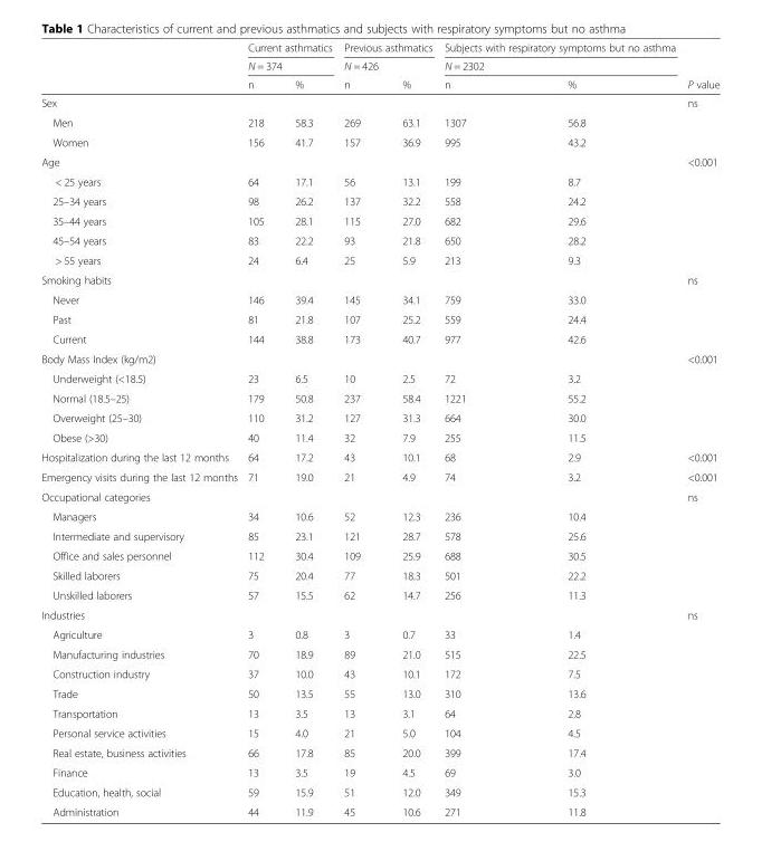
<table><thead><tr><td rowspan="3"></td><td rowspan="2" colspan="2">Current asthmatics N = 374</td><td colspan="2">Previous asthmatics</td><td rowspan="2" colspan="2">Subjects with respiratory symptoms but no asthma N = 2302</td><td rowspan="3">P value</td></tr><tr><td rowspan="2">N = 426 n</td><td rowspan="2">%</td></tr><tr><td>n</td><td>%</td><td>n</td><td>%</td></tr></thead><tbody><tr><td>Sex</td><td></td><td></td><td></td><td></td><td></td><td></td><td>ns</td></tr><tr><td>Men</td><td>218</td><td>58.3</td><td>269</td><td>63.1</td><td>1307</td><td>56.8</td><td></td></tr><tr><td>Women</td><td>156</td><td>41.7</td><td>157</td><td>36.9</td><td>995</td><td>43.2</td><td></td></tr><tr><td>Age</td><td></td><td></td><td></td><td></td><td></td><td></td><td>&lt;0.001</td></tr><tr><td>&lt; 25 years</td><td>64</td><td>17.1</td><td>56</td><td>13.1</td><td>199</td><td>8.7</td><td></td></tr><tr><td>25–34 years</td><td>98</td><td>26.2</td><td>137</td><td>32.2</td><td>558</td><td>24.2</td><td></td></tr><tr><td>35–44 years</td><td>105</td><td>28.1</td><td>115</td><td>27.0</td><td>682</td><td>29.6</td><td></td></tr><tr><td>45–54 years</td><td>83</td><td>22.2</td><td>93</td><td>21.8</td><td>650</td><td>28.2</td><td></td></tr><tr><td>&gt; 55 years</td><td>24</td><td>6.4</td><td>25</td><td>5.9</td><td>213</td><td>9.3</td><td></td></tr><tr><td>Smoking habits</td><td></td><td></td><td></td><td></td><td></td><td></td><td>ns</td></tr><tr><td>Never</td><td>146</td><td>39.4</td><td>145</td><td>34.1</td><td>759</td><td>33.0</td><td></td></tr><tr><td>Past</td><td>81</td><td>21.8</td><td>107</td><td>25.2</td><td>559</td><td>24.4</td><td></td></tr><tr><td>Current</td><td>144</td><td>38.8</td><td>173</td><td>40.7</td><td>977</td><td>42.6</td><td></td></tr><tr><td>Body Mass Index (kg/m2)</td><td></td><td></td><td></td><td></td><td></td><td></td><td>&lt;0.001</td></tr><tr><td>Underweight (&lt;18.5)</td><td>23</td><td>6.5</td><td>10</td><td>2.5</td><td>72</td><td>3.2</td><td></td></tr><tr><td>Normal (18.5–25)</td><td>179</td><td>50.8</td><td>237</td><td>58.4</td><td>1221</td><td>55.2</td><td></td></tr><tr><td>Overweight (25–30)</td><td>110</td><td>31.2</td><td>127</td><td>31.3</td><td>664</td><td>30.0</td><td></td></tr><tr><td>Obese (&gt;30)</td><td>40</td><td>11.4</td><td>32</td><td>7.9</td><td>255</td><td>11.5</td><td></td></tr><tr><td>Hospitalization during the last 12 months</td><td>64</td><td>17.2</td><td>43</td><td>10.1</td><td>68</td><td>2.9</td><td>&lt;0.001</td></tr><tr><td>Emergency visits during the last 12 months</td><td>71</td><td>19.0</td><td>21</td><td>4.9</td><td>74</td><td>3.2</td><td>&lt;0.001</td></tr><tr><td>Occupational categories</td><td></td><td></td><td></td><td></td><td></td><td></td><td>ns</td></tr><tr><td>Managers</td><td>34</td><td>10.6</td><td>52</td><td>12.3</td><td>236</td><td>10.4</td><td></td></tr><tr><td>Intermediate and supervisory</td><td>85</td><td>23.1</td><td>121</td><td>28.7</td><td>578</td><td>25.6</td><td></td></tr><tr><td>Office and sales personnel</td><td>112</td><td>30.4</td><td>109</td><td>25.9</td><td>688</td><td>30.5</td><td></td></tr><tr><td>Skilled laborers</td><td>75</td><td>20.4</td><td>77</td><td>18.3</td><td>501</td><td>22.2</td><td></td></tr><tr><td>Unskilled laborers</td><td>57</td><td>15.5</td><td>62</td><td>14.7</td><td>256</td><td>11.3</td><td></td></tr><tr><td>Industries</td><td></td><td></td><td></td><td></td><td></td><td></td><td>ns</td></tr><tr><td>Agriculture</td><td>3</td><td>0.8</td><td>3</td><td>0.7</td><td>33</td><td>1.4</td><td></td></tr><tr><td>Manufacturing industries</td><td>70</td><td>18.9</td><td>89</td><td>21.0</td><td>515</td><td>22.5</td><td></td></tr><tr><td>Construction industry</td><td>37</td><td>10.0</td><td>43</td><td>10.1</td><td>172</td><td>7.5</td><td></td></tr><tr><td>Trade</td><td>50</td><td>13.5</td><td>55</td><td>13.0</td><td>310</td><td>13.6</td><td></td></tr><tr><td>Transportation</td><td>13</td><td>3.5</td><td>13</td><td>3.1</td><td>64</td><td>2.8</td><td></td></tr><tr><td>Personal service activities</td><td>15</td><td>4.0</td><td>21</td><td>5.0</td><td>104</td><td>4.5</td><td></td></tr><tr><td>Real estate, business activities</td><td>66</td><td>17.8</td><td>85</td><td>20.0</td><td>399</td><td>17.4</td><td></td></tr><tr><td>Finance</td><td>13</td><td>3.5</td><td>19</td><td>4.5</td><td>69</td><td>3.0</td><td></td></tr><tr><td>Education, health, social</td><td>59</td><td>15.9</td><td>51</td><td>12.0</td><td>349</td><td>15.3</td><td></td></tr><tr><td>Administration</td><td>44</td><td>11.9</td><td>45</td><td>10.6</td><td>271</td><td>11.8</td><td></td></tr></tbody></table>